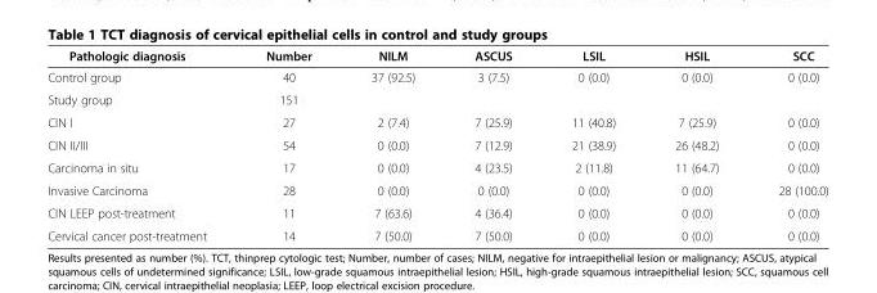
<table><thead><tr><td>Pathologic diagnosis</td><td>Number</td><td>NILM</td><td>ASCUS</td><td>LSIL</td><td>HSIL</td><td>SCC</td></tr></thead><tbody><tr><td>Control group</td><td>40</td><td>37 (92.5)</td><td>3 (7.5)</td><td>0 (0.0)</td><td>0 (0.0)</td><td>0 (0.0)</td></tr><tr><td>Study group</td><td>151</td><td></td><td></td><td></td><td></td><td></td></tr><tr><td>CIN I</td><td>27</td><td>2 (7.4)</td><td>7 (25.9)</td><td>11 (40.8)</td><td>7 (25.9)</td><td>0 (0.0)</td></tr><tr><td>CIN II/III</td><td>54</td><td>0 (0.0)</td><td>7 (12.9)</td><td>21 (38.9)</td><td>26 (48.2)</td><td>0 (0.0)</td></tr><tr><td>Carcinoma in situ</td><td>17</td><td>0 (0.0)</td><td>4 (23.5)</td><td>2 (11.8)</td><td>11 (64.7)</td><td>0 (0.0)</td></tr><tr><td>Invasive Carcinoma</td><td>28</td><td>0 (0.0)</td><td>0 (0.0)</td><td>0 (0.0)</td><td>0 (0.0)</td><td>28 (100.0)</td></tr><tr><td>CIN LEEP post-treatment</td><td>11</td><td>7 (63.6)</td><td>4 (36.4)</td><td>0 (0.0)</td><td>0 (0.0)</td><td>0 (0.0)</td></tr><tr><td>Cervical cancer post-treatment</td><td>14</td><td>7 (50.0)</td><td>7 (50.0)</td><td>0 (0.0)</td><td>0 (0.0)</td><td>0 (0.0)</td></tr></tbody></table>